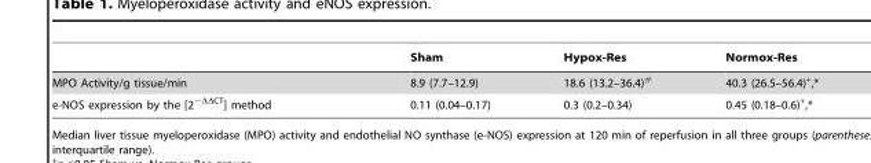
<table><thead><tr><td></td><td>Sham</td><td>Hypox-Res</td><td>Normox-Res</td></tr></thead><tbody><tr><td>MPO Activity/g tissue/min</td><td>8.9 (7.7–12.9)</td><td>18.6 (13.2–36.4)#</td><td>40.3 (26.5–56.4)+,*</td></tr><tr><td>e-NOS expression by the [2<sup>−ΔΔCT</sup>] method</td><td>0.11 (0.04–0.17)</td><td>0.3 (0.2–0.34)</td><td>0.45 (0.18–0.6)+,*</td></tr></tbody></table>